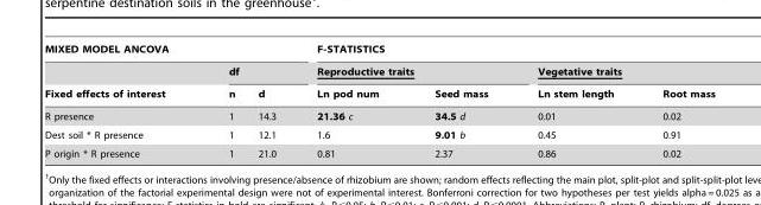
<table><thead><tr><td colspan="3">MIXED MODEL ANCOVA</td><td colspan="4">F-STATISTICS</td></tr><tr><td rowspan="2">Fixed effects of interest</td><td colspan="2">df</td><td colspan="2">Reproductive traits</td><td colspan="2">Vegetative traits</td></tr><tr><td>n</td><td>d</td><td>Ln pod num</td><td>Seed mass</td><td>Ln stem length</td><td>Root mass</td></tr></thead><tbody><tr><td>R presence</td><td>1</td><td>14.3</td><td>21.36 c</td><td>34.5 d</td><td>0.01</td><td>0.02</td></tr><tr><td>Dest soil * R presence</td><td>1</td><td>12.1</td><td>1.6</td><td>9.01 b</td><td>0.45</td><td>0.91</td></tr><tr><td>P origin * R presence</td><td>1</td><td>21.0</td><td>0.81</td><td>2.37</td><td>0.86</td><td>0.02</td></tr></tbody></table>